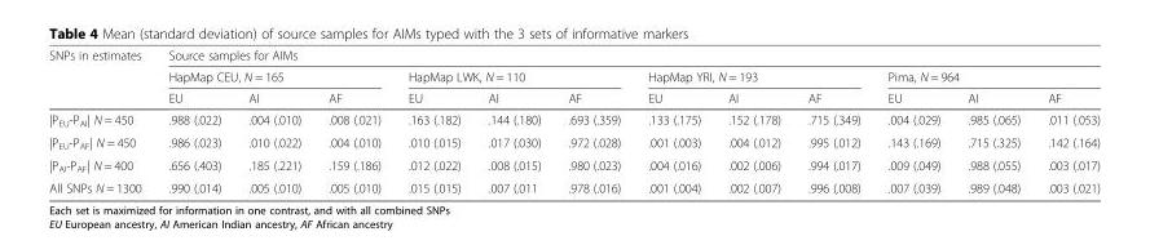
<table><thead><tr><td rowspan="3">SNPs in estimates</td><td colspan="12">Source samples for AIMs</td></tr><tr><td colspan="3">HapMap CEU, N = 165</td><td colspan="3">HapMap LWK, N = 110</td><td colspan="3">HapMap YRI, N = 193</td><td colspan="3">Pima, N = 964</td></tr><tr><td>EU</td><td>AI</td><td>AF</td><td>EU</td><td>AI</td><td>AF</td><td>EU</td><td>AI</td><td>AF</td><td>EU</td><td>AI</td><td>AF</td></tr></thead><tbody><tr><td>|P<sub>EU</sub>-P<sub>AI</sub>| N = 450</td><td>.988 (.022)</td><td>.004 (.010)</td><td>.008 (.021)</td><td>.163 (.182)</td><td>.144 (.180)</td><td>.693 (.359)</td><td>.133 (.175)</td><td>.152 (.178)</td><td>.715 (.349)</td><td>.004 (.029)</td><td>.985 (.065)</td><td>.011 (.053)</td></tr><tr><td>|P<sub>EU</sub>-P<sub>AF</sub>| N = 450</td><td>.986 (.023)</td><td>.010 (.022)</td><td>.004 (.010)</td><td>.010 (.015)</td><td>.017 (.030)</td><td>.972 (.028)</td><td>.001 (.003)</td><td>.004 (.012)</td><td>.995 (.012)</td><td>.143 (.169)</td><td>.715 (.325)</td><td>.142 (.164)</td></tr><tr><td>|P<sub>AI</sub>-P<sub>AF</sub>| N = 400</td><td>.656 (.403)</td><td>.185 (.221)</td><td>.159 (.186)</td><td>.012 (.022)</td><td>.008 (.015)</td><td>.980 (.023)</td><td>.004 (.016)</td><td>.002 (.006)</td><td>.994 (.017)</td><td>.009 (.049)</td><td>.988 (.055)</td><td>.003 (.017)</td></tr><tr><td>All SNPs N = 1300</td><td>.990 (.014)</td><td>.005 (.010)</td><td>.005 (.010)</td><td>.015 (.015)</td><td>.007 (.011</td><td>.978 (.016)</td><td>.001 (.004)</td><td>.002 (.007)</td><td>.996 (.008)</td><td>.007 (.039)</td><td>.989 (.048)</td><td>.003 (.021)</td></tr></tbody></table>